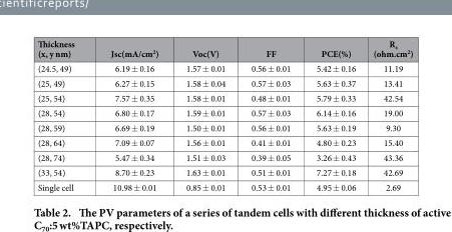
<table><thead><tr><td>Thickness (x, y nm)</td><td>Jsc(mA/cm<sup>2</sup>)</td><td>Voc(V)</td><td>FF</td><td>PCE(%)</td><td>R<sub>s</sub> (ohm.cm<sup>2</sup>)</td></tr></thead><tbody><tr><td>(24.5, 49)</td><td>6.19 ± 0.16</td><td>1.57 ± 0.01</td><td>0.56 ± 0.01</td><td>5.42 ± 0.16</td><td>11.19</td></tr><tr><td>(25, 49)</td><td>6.27 ± 0.15</td><td>1.58 ± 0.04</td><td>0.57 ± 0.03</td><td>5.63 ± 0.37</td><td>13.41</td></tr><tr><td>(25, 54)</td><td>7.57 ± 0.35</td><td>1.58 ± 0.01</td><td>0.48 ± 0.01</td><td>5.79 ± 0.33</td><td>42.54</td></tr><tr><td>(28, 54)</td><td>6.80 ± 0.17</td><td>1.59 ± 0.01</td><td>0.57 ± 0.03</td><td>6.14 ± 0.16</td><td>19.00</td></tr><tr><td>(28, 59)</td><td>6.69 ± 0.19</td><td>1.50 ± 0.01</td><td>0.56 ± 0.01</td><td>5.63 ± 0.19</td><td>9.30</td></tr><tr><td>(28, 64)</td><td>7.09 ± 0.07</td><td>1.56 ± 0.01</td><td>0.41 ± 0.01</td><td>4.80 ± 0.23</td><td>15.40</td></tr><tr><td>(28, 74)</td><td>5.47 ± 0.34</td><td>1.51 ± 0.03</td><td>0.39 ± 0.05</td><td>3.26 ± 0.43</td><td>43.36</td></tr><tr><td>(33, 54)</td><td>8.70 ± 0.23</td><td>1.63 ± 0.01</td><td>0.51 ± 0.01</td><td>7.27 ± 0.18</td><td>42.69</td></tr><tr><td>Single cell</td><td>10.98 ± 0.01</td><td>0.85 ± 0.01</td><td>0.53 ± 0.01</td><td>4.95 ± 0.06</td><td>2.69</td></tr></tbody></table>